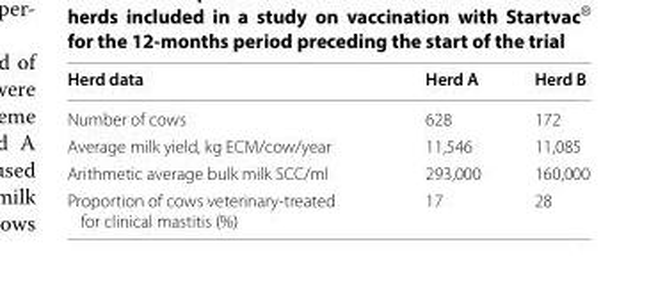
<table><thead><tr><td>Herd data</td><td>Herd A</td><td>Herd B</td></tr></thead><tbody><tr><td>Number of cows</td><td>628</td><td>172</td></tr><tr><td>Average milk yield, kg ECM/cow/year</td><td>11,546</td><td>11,085</td></tr><tr><td>Arithmetic average bulk milk SCC/ml</td><td>293,000</td><td>160,000</td></tr><tr><td>Proportion of cows veterinary-treated for clinical mastitis (%)</td><td>17</td><td>28</td></tr></tbody></table>